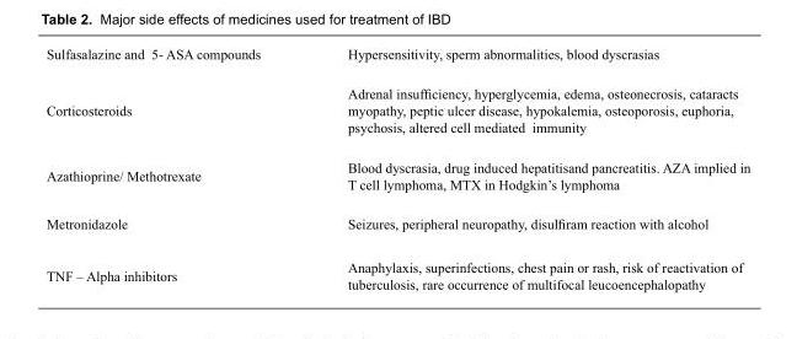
<table><tbody><tr><td>Sulfasalazine and 5- ASA compounds</td><td>Hypersensitivity, sperm abnormalities, blood dyscrasias</td></tr><tr><td>Corticosteroids</td><td>Adrenal insufficiency, hyperglycemia, edema, osteonecrosis, cataracts myopathy, peptic ulcer disease, hypokalemia, osteoporosis, euphoria, psychosis, altered cell mediated immunity</td></tr><tr><td>Azathioprine/ Methotrexate</td><td>Blood dyscrasia, drug induced hepatitisand pancreatitis. AZA implied in T cell lymphoma, MTX in Hodgkin’s lymphoma</td></tr><tr><td>Metronidazole</td><td>Seizures, peripheral neuropathy, disulfiram reaction with alcohol</td></tr><tr><td>TNF – Alpha inhibitors</td><td>Anaphylaxis, superinfections, chest pain or rash, risk of reactivation of tuberculosis, rare occurrence of multifocal leucoencephalopathy</td></tr></tbody></table>